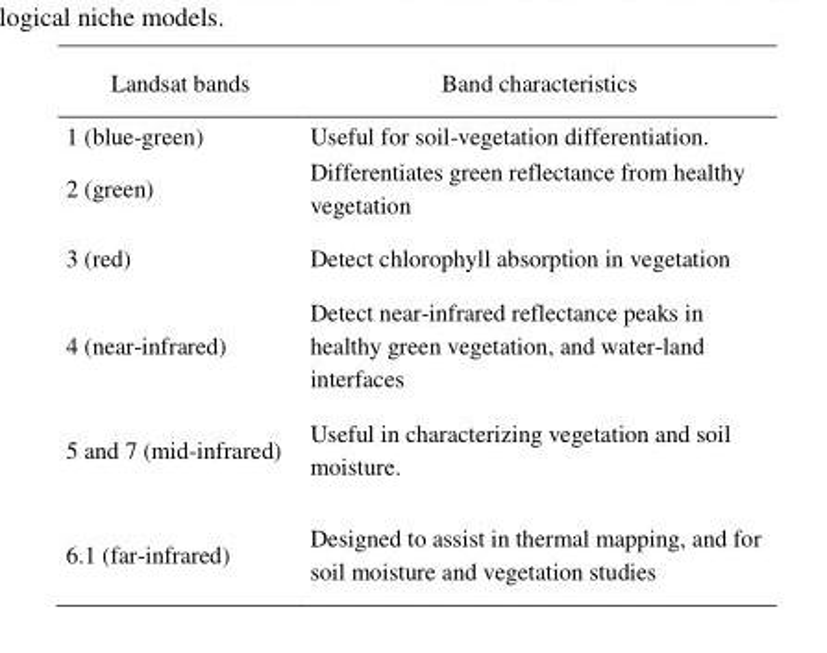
<table><thead><tr><td>Landsat bands</td><td>Band characteristics</td></tr></thead><tbody><tr><td>1 (blue-green)</td><td>Useful for soil-vegetation differentiation.</td></tr><tr><td>2 (green)</td><td>Differentiates green reflectance from healthy vegetation</td></tr><tr><td>3 (red)</td><td>Detect chlorophyll absorption in vegetation</td></tr><tr><td>4 (near-infrared)</td><td>Detect near-infrared reflectance peaks in healthy green vegetation, and water-land interfaces</td></tr><tr><td>5 and 7 (mid-infrared)</td><td>Useful in characterizing vegetation and soil moisture.</td></tr><tr><td>6.1 (far-infrared)</td><td>Designed to assist in thermal mapping, and for soil moisture and vegetation studies</td></tr></tbody></table>